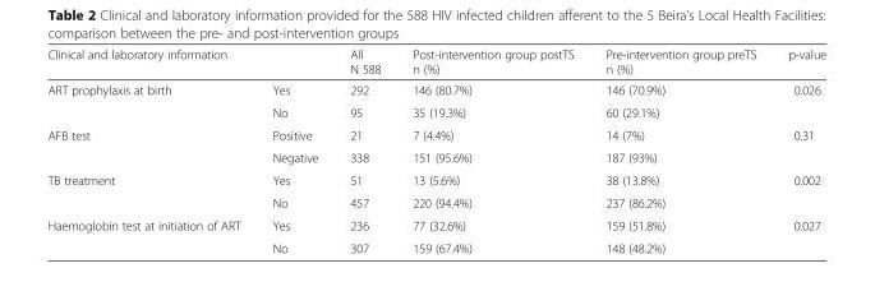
<table><thead><tr><td>Clinical and laboratory information</td><td></td><td>All N 588</td><td>Post-intervention group postTS n (%)</td><td>Pre-intervention group preTS n (%)</td><td>p-value</td></tr></thead><tbody><tr><td rowspan="2">ART prophylaxis at birth</td><td>Yes</td><td>292</td><td>146 (80.7%)</td><td>146 (70.9%)</td><td rowspan="2">0.026</td></tr><tr><td>No</td><td>95</td><td>35 (19.3%)</td><td>60 (29.1%)</td></tr><tr><td rowspan="2">AFB test</td><td>Positive</td><td>21</td><td>7 (4.4%)</td><td>14 (7%)</td><td rowspan="2">0.31</td></tr><tr><td>Negative</td><td>338</td><td>151 (95.6%)</td><td>187 (93%)</td></tr><tr><td rowspan="2">TB treatment</td><td>Yes</td><td>51</td><td>13 (5.6%)</td><td>38 (13.8%)</td><td rowspan="2">0.002</td></tr><tr><td>No</td><td>457</td><td>220 (94.4%)</td><td>237 (86.2%)</td></tr><tr><td rowspan="2">Haemoglobin test at initiation of ART</td><td>Yes</td><td>236</td><td>77 (32.6%)</td><td>159 (51.8%)</td><td rowspan="2">0.027</td></tr><tr><td>No</td><td>307</td><td>159 (67.4%)</td><td>148 (48.2%)</td></tr></tbody></table>